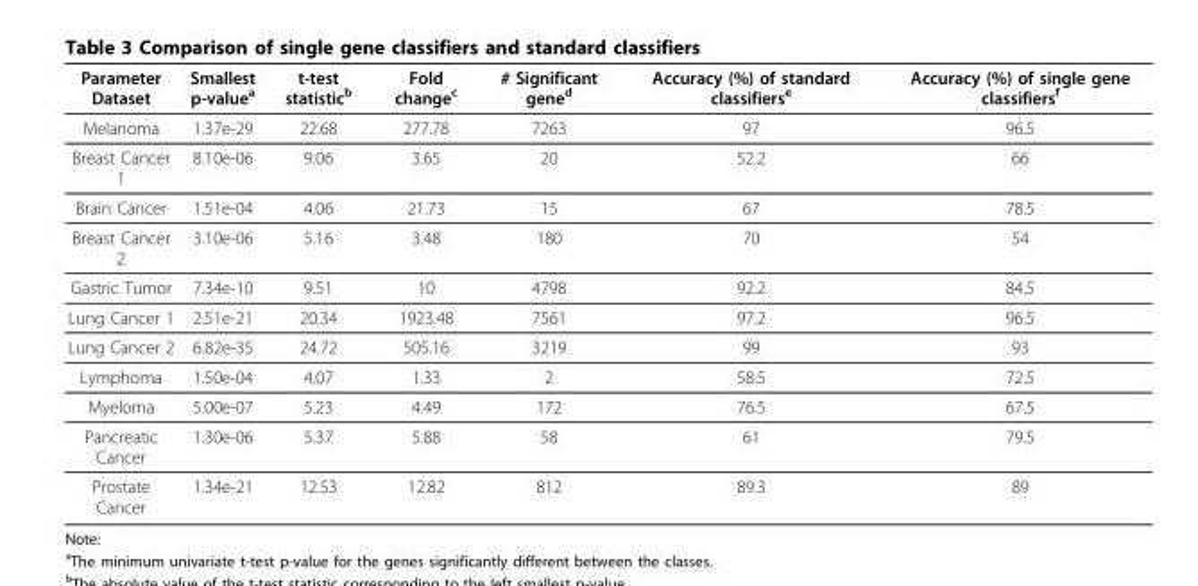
<table><thead><tr><td>Parameter Dataset</td><td>Smallest p-value<sup>a</sup></td><td>t-test statistic<sup>b</sup></td><td>Fold change<sup>c</sup></td><td># Significant gene<sup>d</sup></td><td>Accuracy (%) of standard classifiers<sup>e</sup></td><td>Accuracy (%) of single gene classifiers<sup>f</sup></td></tr></thead><tbody><tr><td>Melanoma</td><td>1.37e-29</td><td>22.68</td><td>277.78</td><td>7263</td><td>97</td><td>96.5</td></tr><tr><td>Breast Cancer 1</td><td>8.10e-06</td><td>9.06</td><td>3.65</td><td>20</td><td>52.2</td><td>66</td></tr><tr><td>Brain Cancer</td><td>1.51e-04</td><td>4.06</td><td>21.73</td><td>15</td><td>67</td><td>78.5</td></tr><tr><td>Breast Cancer 2</td><td>3.10e-06</td><td>5.16</td><td>3.48</td><td>180</td><td>70</td><td>54</td></tr><tr><td>Gastric Tumor</td><td>7.34e-10</td><td>9.51</td><td>10</td><td>4798</td><td>92.2</td><td>84.5</td></tr><tr><td>Lung Cancer 1</td><td>2.51e-21</td><td>20.34</td><td>1923.48</td><td>7561</td><td>97.2</td><td>96.5</td></tr><tr><td>Lung Cancer 2</td><td>6.82e-35</td><td>24.72</td><td>505.16</td><td>3219</td><td>99</td><td>93</td></tr><tr><td>Lymphoma</td><td>1.50e-04</td><td>4.07</td><td>1.33</td><td>2</td><td>58.5</td><td>72.5</td></tr><tr><td>Myeloma</td><td>5.00e-07</td><td>5.23</td><td>4.49</td><td>172</td><td>76.5</td><td>67.5</td></tr><tr><td>Pancreatic Cancer</td><td>1.30e-06</td><td>5.37</td><td>5.88</td><td>58</td><td>61</td><td>79.5</td></tr><tr><td>Prostate Cancer</td><td>1.34e-21</td><td>12.53</td><td>12.82</td><td>812</td><td>89.3</td><td>89</td></tr></tbody></table>